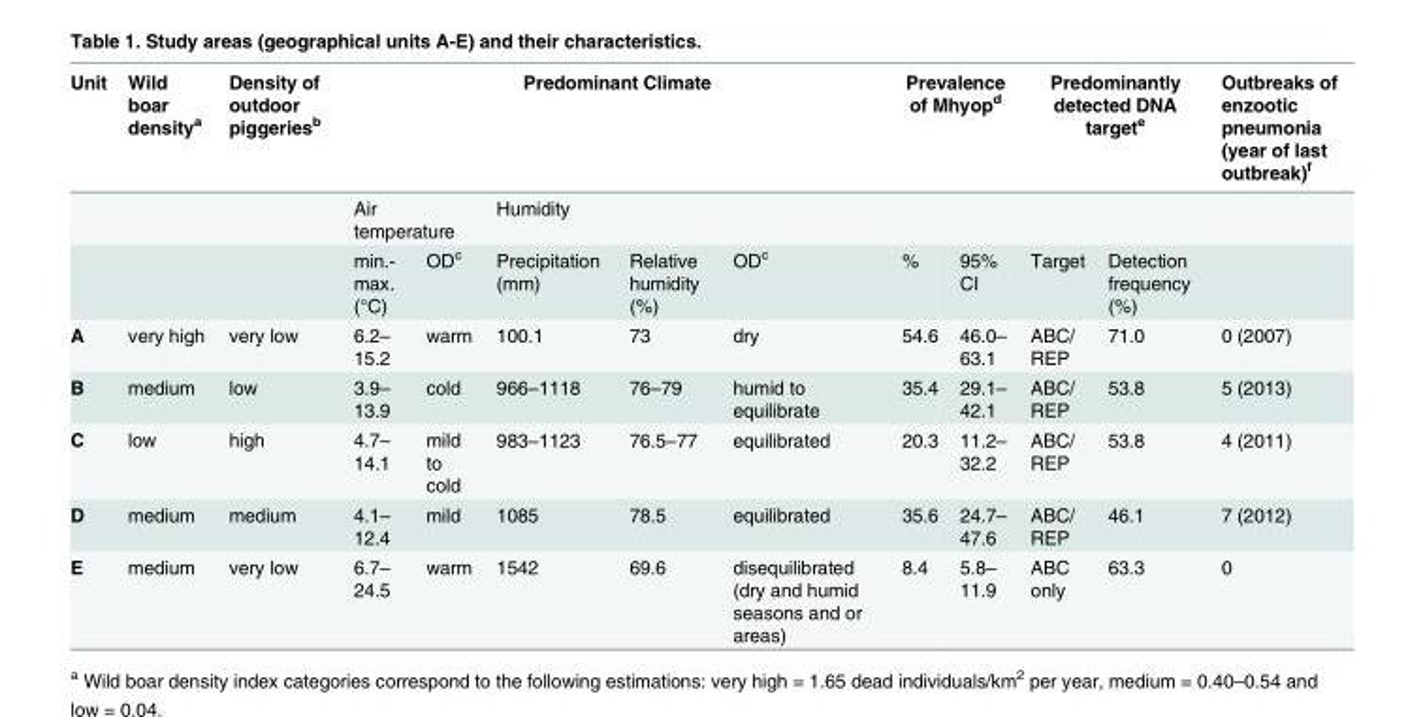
<table><thead><tr><td rowspan="3">Unit</td><td rowspan="3">Wild boar density<sup>a</sup></td><td rowspan="3">Density of outdoor piggeries<sup>b</sup></td><td colspan="5">Predominant Climate</td><td rowspan="2" colspan="2">Prevalence of Mhyop<sup>d</sup></td><td rowspan="2" colspan="2">Predominantly detected DNA target<sup>e</sup></td><td rowspan="3">Outbreaks of enzootic pneumonia (year of last outbreak)<sup>f</sup></td></tr><tr><td colspan="2">Air temperature</td><td colspan="3">Humidity</td></tr><tr><td>min.- max. (°C)</td><td>OD<sup>c</sup></td><td>Precipitation (mm)</td><td>Relative humidity (%)</td><td>OD<sup>c</sup></td><td>%</td><td>95% CI</td><td>Target</td><td>Detection frequency (%)</td></tr></thead><tbody><tr><td>A</td><td>very high</td><td>very low</td><td>6.2– 15.2</td><td>warm</td><td>100.1</td><td>73</td><td>dry</td><td>54.6</td><td>46.0– 63.1</td><td>ABC/ REP</td><td>71.0</td><td>0 (2007)</td></tr><tr><td>B</td><td>medium</td><td>low</td><td>3.9– 13.9</td><td>cold</td><td>966–1118</td><td>76–79</td><td>humid to equilibrate</td><td>35.4</td><td>29.1– 42.1</td><td>ABC/ REP</td><td>53.8</td><td>5 (2013)</td></tr><tr><td>C</td><td>low</td><td>high</td><td>4.7– 14.1</td><td>mild to cold</td><td>983–1123</td><td>76.5–77</td><td>equilibrated</td><td>20.3</td><td>11.2– 32.2</td><td>ABC/ REP</td><td>53.8</td><td>4 (2011)</td></tr><tr><td>D</td><td>medium</td><td>medium</td><td>4.1– 12.4</td><td>mild</td><td>1085</td><td>78.5</td><td>equilibrated</td><td>35.6</td><td>24.7– 47.6</td><td>ABC/ REP</td><td>46.1</td><td>7 (2012)</td></tr><tr><td>E</td><td>medium</td><td>very low</td><td>6.7– 24.5</td><td>warm</td><td>1542</td><td>69.6</td><td>disequilibrated (dry and humid seasons and or areas)</td><td>8.4</td><td>5.8– 11.9</td><td>ABC only</td><td>63.3</td><td>0</td></tr></tbody></table>